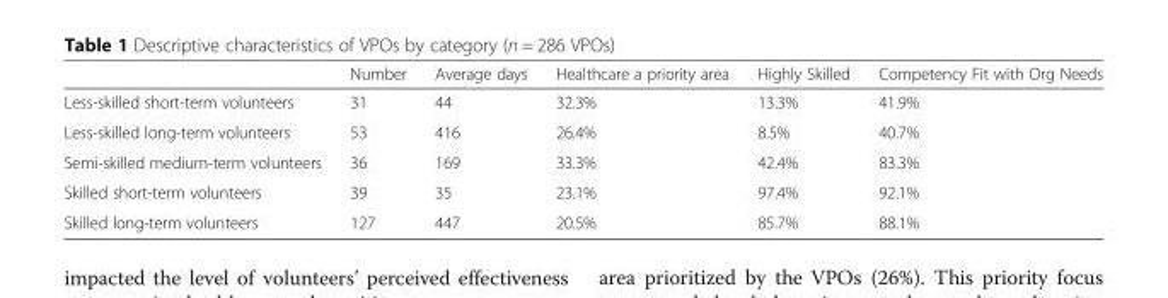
<table><thead><tr><td></td><td>Number</td><td>Average days</td><td>Healthcare a priority area</td><td>Highly Skilled</td><td>Competency Fit with Org Needs</td></tr></thead><tbody><tr><td>Less-skilled short-term volunteers</td><td>31</td><td>44</td><td>32.3%</td><td>13.3%</td><td>41.9%</td></tr><tr><td>Less-skilled long-term volunteers</td><td>53</td><td>416</td><td>26.4%</td><td>8.5%</td><td>40.7%</td></tr><tr><td>Semi-skilled medium-term volunteers</td><td>36</td><td>169</td><td>33.3%</td><td>42.4%</td><td>83.3%</td></tr><tr><td>Skilled short-term volunteers</td><td>39</td><td>35</td><td>23.1%</td><td>97.4%</td><td>92.1%</td></tr><tr><td>Skilled long-term volunteers</td><td>127</td><td>447</td><td>20.5%</td><td>85.7%</td><td>88.1%</td></tr></tbody></table>